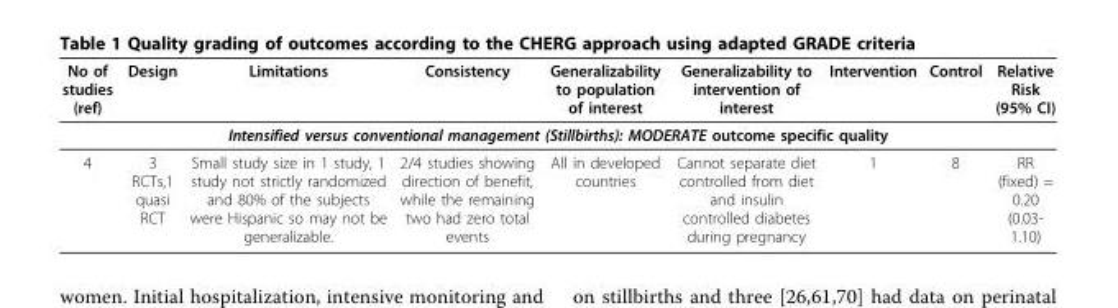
<table><thead><tr><td>No of studies (ref)</td><td>Design</td><td>Limitations</td><td>Consistency</td><td>Generalizability to population of interest</td><td>Generalizability to intervention of interest</td><td>Intervention</td><td>Control</td><td>Relative Risk (95% CI)</td></tr></thead><tbody><tr><td colspan="9">Intensified versus conventional management (Stillbirths): MODERATE outcome specific quality</td></tr><tr><td>4</td><td>3 RCTs,1 quasi RCT</td><td>Small study size in 1 study, 1 study not strictly randomized and 80% of the subjects were Hispanic so may not be generalizable.</td><td>2/4 studies showing direction of benefit, while the remaining two had zero total events</td><td>All in developed countries</td><td>Cannot separate diet controlled from diet and insulin controlled diabetes during pregnancy</td><td>1</td><td>8</td><td>RR (fixed) = 0.20 (0.03- 1.10)</td></tr></tbody></table>